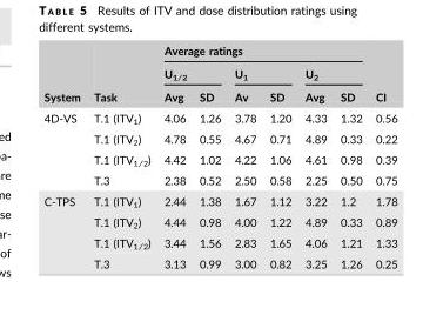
<table><thead><tr><td rowspan="3">System</td><td rowspan="3">Task</td><td colspan="6">Average ratings</td><td rowspan="3">CI</td></tr><tr><td colspan="2">U<sub>1∕2</sub></td><td colspan="2">U<sub>1</sub></td><td colspan="2">U<sub>2</sub></td></tr><tr><td>Avg</td><td>SD</td><td>Av</td><td>SD</td><td>Avg</td><td>SD</td></tr></thead><tbody><tr><td rowspan="4">4D-VS</td><td>T.1 (ITV<sub>1</sub>)</td><td>4.06</td><td>1.26</td><td>3.78</td><td>1.20</td><td>4.33</td><td>1.32</td><td>0.56</td></tr><tr><td>T.1 (ITV<sub>2</sub>)</td><td>4.78</td><td>0.55</td><td>4.67</td><td>0.71</td><td>4.89</td><td>0.33</td><td>0.22</td></tr><tr><td>T.1 (ITV<sub>1∕2</sub>)</td><td>4.42</td><td>1.02</td><td>4.22</td><td>1.06</td><td>4.61</td><td>0.98</td><td>0.39</td></tr><tr><td>T.3</td><td>2.38</td><td>0.52</td><td>2.50</td><td>0.58</td><td>2.25</td><td>0.50</td><td>0.75</td></tr><tr><td rowspan="4">C-TPS</td><td>T.1 (ITV<sub>1</sub>)</td><td>2.44</td><td>1.38</td><td>1.67</td><td>1.12</td><td>3.22</td><td>1.2</td><td>1.78</td></tr><tr><td>T.1 (ITV<sub>2</sub>)</td><td>4.44</td><td>0.98</td><td>4.00</td><td>1.22</td><td>4.89</td><td>0.33</td><td>0.89</td></tr><tr><td>T.1 (ITV<sub>1∕2</sub>)</td><td>3.44</td><td>1.56</td><td>2.83</td><td>1.65</td><td>4.06</td><td>1.21</td><td>1.33</td></tr><tr><td>T.3</td><td>3.13</td><td>0.99</td><td>3.00</td><td>0.82</td><td>3.25</td><td>1.26</td><td>0.25</td></tr></tbody></table>